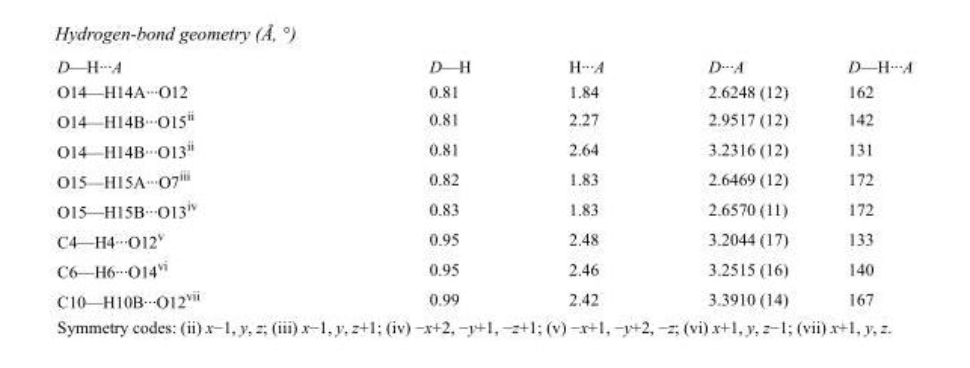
<table><tbody><tr><td>D—H···A</td><td>D—H</td><td>H···A</td><td>D···A</td><td>D—H···A</td></tr><tr><td>O14—H14A···O12</td><td>0.81</td><td>1.84</td><td>2.6248 (12)</td><td>162</td></tr><tr><td>O14—H14B···O15<sup>ii</sup></td><td>0.81</td><td>2.27</td><td>2.9517 (12)</td><td>142</td></tr><tr><td>O14—H14B···O13<sup>ii</sup></td><td>0.81</td><td>2.64</td><td>3.2316 (12)</td><td>131</td></tr><tr><td>O15—H15A···O7<sup>iii</sup></td><td>0.82</td><td>1.83</td><td>2.6469 (12)</td><td>172</td></tr><tr><td>O15—H15B···O13<sup>iv</sup></td><td>0.83</td><td>1.83</td><td>2.6570 (11)</td><td>172</td></tr><tr><td>C4—H4···O12<sup>v</sup></td><td>0.95</td><td>2.48</td><td>3.2044 (17)</td><td>133</td></tr><tr><td>C6—H6···O14<sup>vi</sup></td><td>0.95</td><td>2.46</td><td>3.2515 (16)</td><td>140</td></tr><tr><td>C10—H10B···O12<sup>vii</sup></td><td>0.99</td><td>2.42</td><td>3.3910 (14)</td><td>167</td></tr></tbody></table>